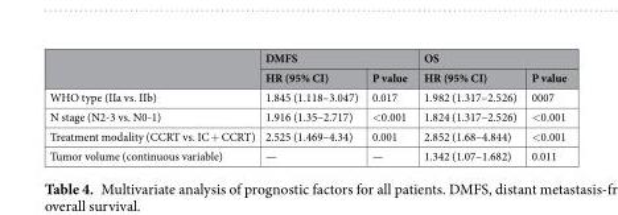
<table><thead><tr><td rowspan="2"></td><td colspan="2">DMFS</td><td colspan="2">OS</td></tr><tr><td>HR (95% CI)</td><td>P value</td><td>HR (95% CI)</td><td>P value</td></tr></thead><tbody><tr><td>WHO type (IIa vs. IIb)</td><td>1.845 (1.118–3.047)</td><td>0.017</td><td>1.982 (1.317–2.526)</td><td>0007</td></tr><tr><td>N stage (N2-3 vs. N0-1)</td><td>1.916 (1.35–2.717)</td><td>&lt;0.001</td><td>1.824 (1.317–2.526)</td><td>&lt;0.001</td></tr><tr><td>Treatment modality (CCRT vs. IC + CCRT)</td><td>2.525 (1.469–4.34)</td><td>0.001</td><td>2.852 (1.68–4.844)</td><td>&lt;0.001</td></tr><tr><td>Tumor volume (continuous variable)</td><td>—</td><td>—</td><td>1.342 (1.07–1.682)</td><td>0.011</td></tr></tbody></table>